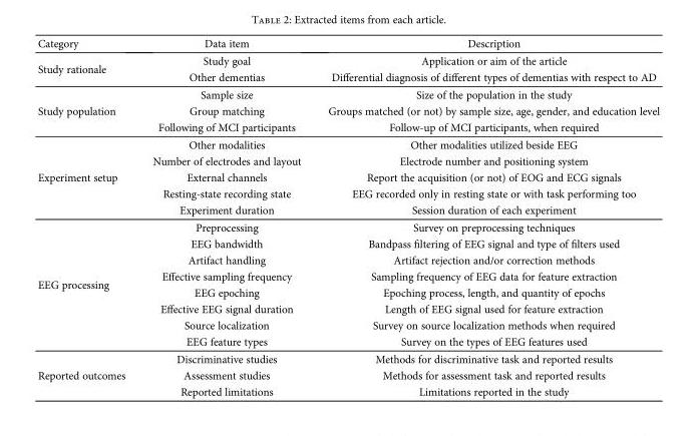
<table><thead><tr><td>Category</td><td>Data item</td><td>Description</td></tr></thead><tbody><tr><td rowspan="2">Study rationale</td><td>Study goal</td><td>Application or aim of the article</td></tr><tr><td>Other dementias</td><td>Differential diagnosis of different types of dementias with respect to AD</td></tr><tr><td rowspan="3">Study population</td><td>Sample size</td><td>Size of the population in the study</td></tr><tr><td>Group matching</td><td>Groups matched (or not) by sample size, age, gender, and education level</td></tr><tr><td>Following of MCI participants</td><td>Follow-up of MCI participants, when required</td></tr><tr><td rowspan="5">Experiment setup</td><td>Other modalities</td><td>Other modalities utilized beside EEG</td></tr><tr><td>Number of electrodes and layout</td><td>Electrode number and positioning system</td></tr><tr><td>External channels</td><td>Report the acquisition (or not) of EOG and ECG signals</td></tr><tr><td>Resting-state recording state</td><td>EEG recorded only in resting state or with task performing too</td></tr><tr><td>Experiment duration</td><td>Session duration of each experiment</td></tr><tr><td rowspan="8">EEG processing</td><td>Preprocessing</td><td>Survey on preprocessing techniques</td></tr><tr><td>EEG bandwidth</td><td>Bandpass filtering of EEG signal and type of filters used</td></tr><tr><td>Artifact handling</td><td>Artifact rejection and/or correction methods</td></tr><tr><td>Effective sampling frequency</td><td>Sampling frequency of EEG data for feature extraction</td></tr><tr><td>EEG epoching</td><td>Epoching process, length, and quantity of epochs</td></tr><tr><td>Effective EEG signal duration</td><td>Length of EEG signal used for feature extraction</td></tr><tr><td>Source localization</td><td>Survey on source localization methods when required</td></tr><tr><td>EEG feature types</td><td>Survey on the types of EEG features used</td></tr><tr><td rowspan="3">Reported outcomes</td><td>Discriminative studies</td><td>Methods for discriminative task and reported results</td></tr><tr><td>Assessment studies</td><td>Methods for assessment task and reported results</td></tr><tr><td>Reported limitations</td><td>Limitations reported in the study</td></tr></tbody></table>